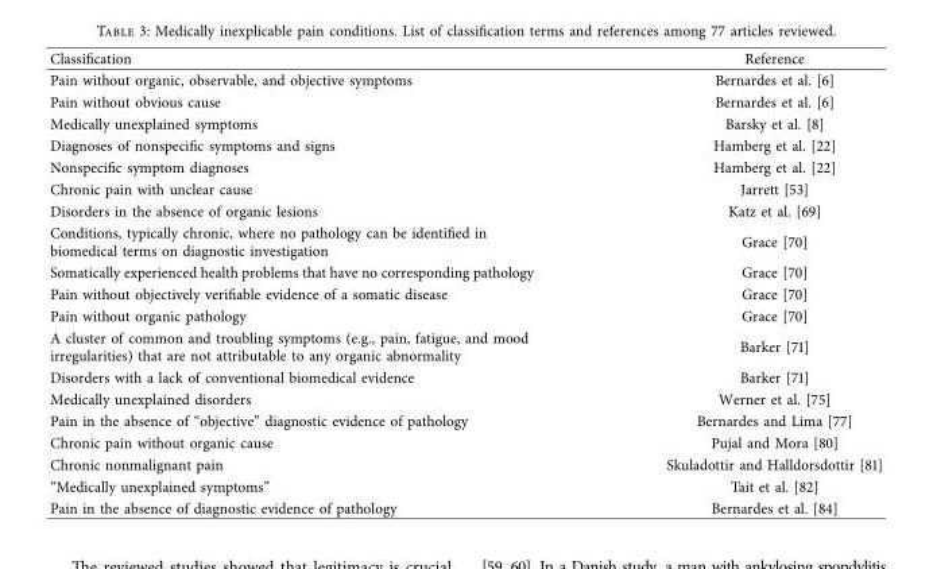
<table><thead><tr><td>Classifcation</td><td>Reference</td></tr></thead><tbody><tr><td>Pain without organic, observable, and objective symptoms</td><td>Bernardes et al. [6]</td></tr><tr><td>Pain without obvious cause</td><td>Bernardes et al. [6]</td></tr><tr><td>Medically unexplained symptoms</td><td>Barsky et al. [8]</td></tr><tr><td>Diagnoses of nonspecifc symptoms and signs</td><td>Hamberg et al. [22]</td></tr><tr><td>Nonspecifc symptom diagnoses</td><td>Hamberg et al. [22]</td></tr><tr><td>Chronic pain with unclear cause</td><td>Jarrett [53]</td></tr><tr><td>Disorders in the absence of organic lesions</td><td>Katz et al. [69]</td></tr><tr><td>Conditions, typically chronic, where no pathology can be identifed in biomedical terms on diagnostic investigation</td><td>Grace [70]</td></tr><tr><td>Somatically experienced health problems that have no corresponding pathology</td><td>Grace [70]</td></tr><tr><td>Pain without objectively verifable evidence of a somatic disease</td><td>Grace [70]</td></tr><tr><td>Pain without organic pathology</td><td>Grace [70]</td></tr><tr><td>A cluster of common and troubling symptoms (e.g., pain, fatigue, and mood irregularities) that are not attributable to any organic abnormality</td><td>Barker [71]</td></tr><tr><td>Disorders with a lack of conventional biomedical evidence</td><td>Barker [71]</td></tr><tr><td>Medically unexplained disorders</td><td>Werner et al. [75]</td></tr><tr><td>Pain in the absence of “objective” diagnostic evidence of pathology</td><td>Bernardes and Lima [77]</td></tr><tr><td>Chronic pain without organic cause</td><td>Pujal and Mora [80]</td></tr><tr><td>Chronic nonmalignant pain</td><td>Skuladottir and Halldorsdottir [81]</td></tr><tr><td>“Medically unexplained symptoms”</td><td>Tait et al. [82]</td></tr><tr><td>Pain in the absence of diagnostic evidence of pathology</td><td>Bernardes et al. [84]</td></tr></tbody></table>